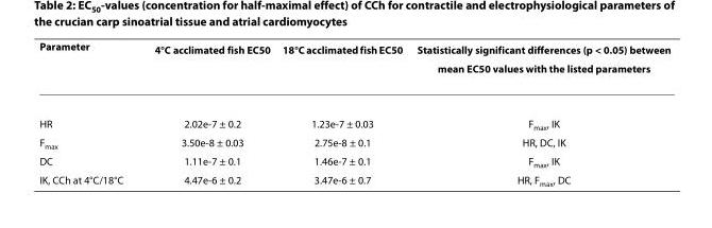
<table><thead><tr><td>Parameter</td><td>4°C acclimated fish EC<sub>50</sub></td><td>18°C acclimated fish EC<sub>50</sub></td><td>Statistically significant differences (p &lt; 0.05) between mean EC<sub>50</sub> values with the listed parameters</td></tr></thead><tbody><tr><td>HR</td><td>2.02e-7 ± 0.2</td><td>1.23e-7 ± 0.03</td><td>F<sub>max</sub>, IK</td></tr><tr><td>F<sub>max</sub></td><td>3.50e-8 ± 0.03</td><td>2.75e-8 ± 0.1</td><td>HR, DC, IK</td></tr><tr><td>DC</td><td>1.11e-7 ± 0.1</td><td>1.46e-7 ± 0.1</td><td>F<sub>max</sub>, IK</td></tr><tr><td>IK, CCh at 4°C/18°C</td><td>4.47e-6 ± 0.2</td><td>3.47e-6 ± 0.7</td><td>HR, F<sub>max</sub>, DC</td></tr></tbody></table>